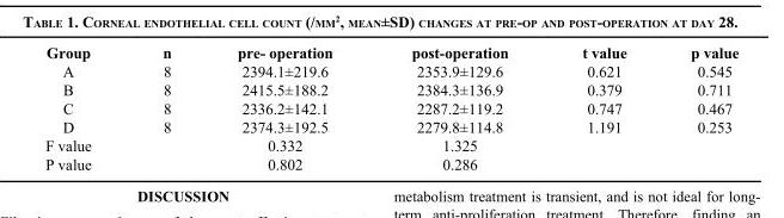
<table><thead><tr><td>Group</td><td>n</td><td>pre- operation</td><td>post-operation</td><td>t value</td><td>p value</td></tr></thead><tbody><tr><td>A</td><td>8</td><td>2394.1±219.6</td><td>2353.9±129.6</td><td>0.621</td><td>0.545</td></tr><tr><td>B</td><td>8</td><td>2415.5±188.2</td><td>2384.3±136.9</td><td>0.379</td><td>0.711</td></tr><tr><td>C</td><td>8</td><td>2336.2±142.1</td><td>2287.2±119.2</td><td>0.747</td><td>0.467</td></tr><tr><td>D</td><td>8</td><td>2374.3±192.5</td><td>2279.8±114.8</td><td>1.191</td><td>0.253</td></tr><tr><td>F value</td><td></td><td>0.332</td><td>1.325</td><td></td><td></td></tr><tr><td>P value</td><td></td><td>0.802</td><td>0.286</td><td></td><td></td></tr></tbody></table>